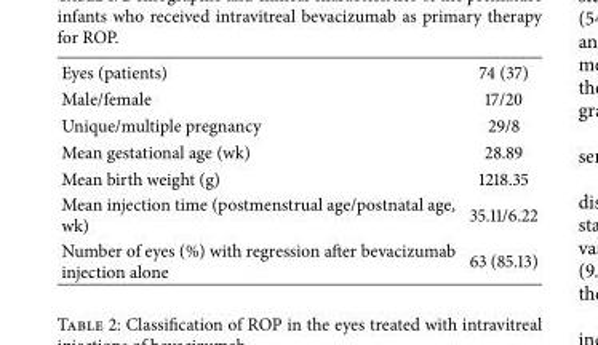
<table><tbody><tr><td>Eyes (patients)</td><td>74 (37)</td></tr><tr><td>Male/female</td><td>17/20</td></tr><tr><td>Unique/multiple pregnancy</td><td>29/8</td></tr><tr><td>Mean gestational age (wk)</td><td>28.89</td></tr><tr><td>Mean birth weight (g)</td><td>1218.35</td></tr><tr><td>Mean injection time (postmenstrual age/postnatal age, wk)</td><td>35.11/6.22</td></tr><tr><td>Number of eyes (%) with regression after bevacizumab injection alone</td><td>63 (85.13)</td></tr></tbody></table>